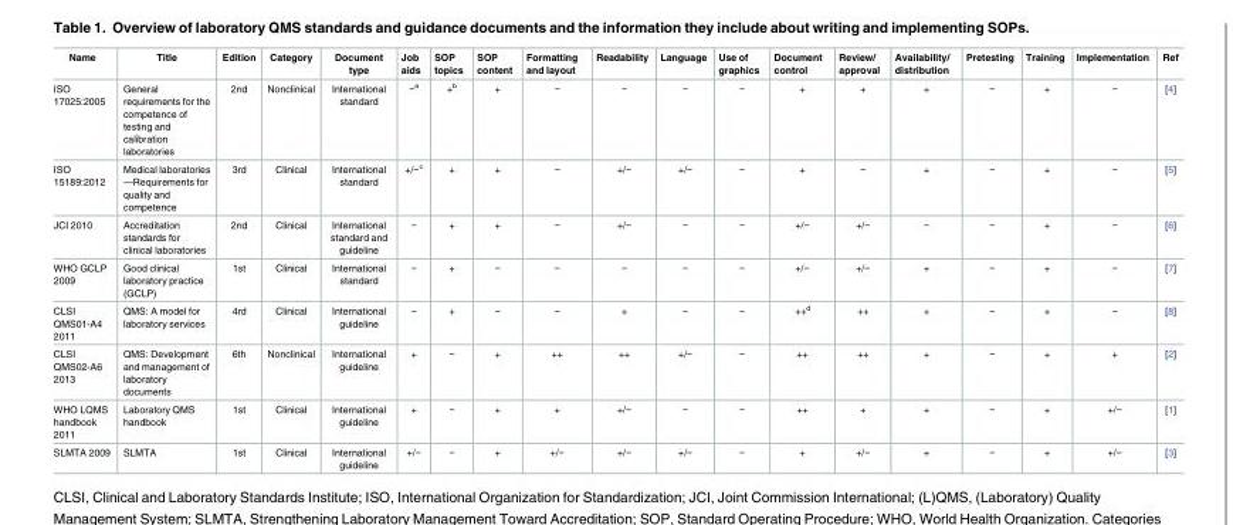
<table><thead><tr><td>Name</td><td>Title</td><td>Edition</td><td>Category</td><td>Document type</td><td>Job aids</td><td>SOP topics</td><td>SOP content</td><td>Formatting and layout</td><td>Readability</td><td>Language</td><td>Use of graphics</td><td>Document control</td><td>Review/ approval</td><td>Availability/ distribution</td><td>Pretesting</td><td>Training</td><td>Implementation</td><td>Ref</td></tr></thead><tbody><tr><td>ISO 17025:2005</td><td>General requirements for the competence of testing and calibration laboratories</td><td>2nd</td><td>Nonclinical</td><td>International standard</td><td>−<sup>a</sup></td><td>+<sup>b</sup></td><td>+</td><td>−</td><td>−</td><td>−</td><td>−</td><td>+</td><td>+</td><td>+</td><td>−</td><td>+</td><td>−</td><td>[4]</td></tr><tr><td>ISO 15189:2012</td><td>Medical laboratories —Requirements for quality and competence</td><td>3rd</td><td>Clinical</td><td>International standard</td><td>+/−<sup>c</sup></td><td>+</td><td>+</td><td>−</td><td>+/−</td><td>+/−</td><td>−</td><td>+</td><td>−</td><td>+</td><td>−</td><td>+</td><td>−</td><td>[5]</td></tr><tr><td>JCI 2010</td><td>Accreditation standards for clinical laboratories</td><td>2nd</td><td>Clinical</td><td>International standard and guideline</td><td>−</td><td>+</td><td>+</td><td>−</td><td>+/−</td><td>−</td><td>−</td><td>+/−</td><td>+/−</td><td>−</td><td>−</td><td>+</td><td>−</td><td>[6]</td></tr><tr><td>WHO GCLP 2009</td><td>Good clinical laboratory practice (GCLP)</td><td>1st</td><td>Clinical</td><td>International standard</td><td>−</td><td>+</td><td>−</td><td>−</td><td>−</td><td>−</td><td>−</td><td>+/−</td><td>+/−</td><td>+</td><td>−</td><td>+</td><td>−</td><td>[7]</td></tr><tr><td>CLSI QMS01-A4 2011</td><td>QMS: A model for laboratory services</td><td>4rd</td><td>Clinical</td><td>International guideline</td><td>−</td><td>+</td><td>−</td><td>−</td><td>+</td><td>−</td><td>−</td><td>++<sup>d</sup></td><td>++</td><td>+</td><td>−</td><td>+</td><td>−</td><td>[8]</td></tr><tr><td>CLSI QMS02-A6 2013</td><td>QMS: Development and management of laboratory documents</td><td>6th</td><td>Nonclinical</td><td>International guideline</td><td>+</td><td>−</td><td>+</td><td>++</td><td>++</td><td>+/−</td><td>−</td><td>++</td><td>++</td><td>+</td><td>−</td><td>+</td><td>+</td><td>[2]</td></tr><tr><td>WHO LQMS handbook 2011</td><td>Laboratory QMS handbook</td><td>1st</td><td>Clinical</td><td>International guideline</td><td>+</td><td>−</td><td>+</td><td>+</td><td>+/−</td><td>−</td><td>−</td><td>++</td><td>+</td><td>+</td><td>−</td><td>+</td><td>+/−</td><td>[1]</td></tr><tr><td>SLMTA 2009</td><td>SLMTA</td><td>1st</td><td>Clinical</td><td>International guideline</td><td>+/−</td><td>−</td><td>+</td><td>+/−</td><td>+/−</td><td>+/−</td><td>−</td><td>+</td><td>+/−</td><td>+</td><td>−</td><td>+</td><td>+/−</td><td>[3]</td></tr></tbody></table>